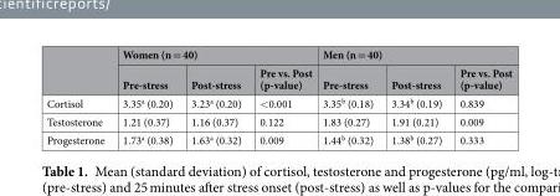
<table><thead><tr><td rowspan="2"></td><td colspan="3">Women (n = 40)</td><td colspan="3">Men (n = 40)</td></tr><tr><td>Pre-stress</td><td>Post-stress</td><td>Pre vs. Post (p-value)</td><td>Pre-stress</td><td>Post-stress</td><td>Pre vs. Post (p-value)</td></tr></thead><tbody><tr><td>Cortisol</td><td>3.35<sup>a</sup> (0.20)</td><td>3.23<sup>a</sup> (0.20)</td><td>&lt;0.001</td><td>3.35<sup>b</sup> (0.18)</td><td>3.34<sup>b</sup> (0.19)</td><td>0.839</td></tr><tr><td>Testosterone</td><td>1.21 (0.37)</td><td>1.16 (0.37)</td><td>0.122</td><td>1.83 (0.27)</td><td>1.91 (0.21)</td><td>0.009</td></tr><tr><td>Progesterone</td><td>1.73<sup>a</sup> (0.38)</td><td>1.63<sup>a</sup> (0.32)</td><td>0.009</td><td>1.44<sup>b</sup> (0.32)</td><td>1.38<sup>b</sup> (0.27)</td><td>0.333</td></tr></tbody></table>